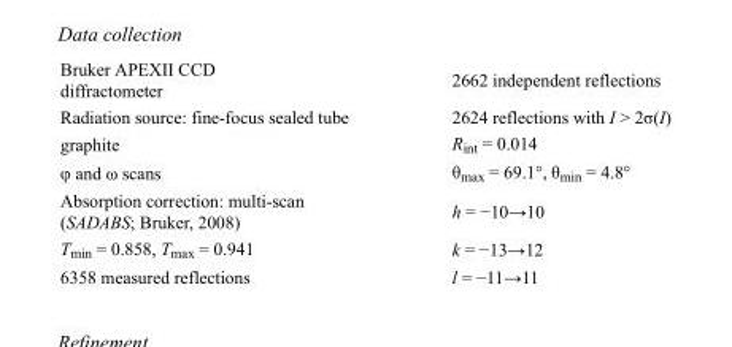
<table><tbody><tr><td>Bruker APEXII CCD diffractometer</td><td>2662 independent reflections</td></tr><tr><td>Radiation source: fine-focus sealed tube</td><td>2624 reflections with I &gt; 2σ(I)</td></tr><tr><td>graphite</td><td>R<sub>int</sub> = 0.014</td></tr><tr><td>φ and ω scans</td><td>θ<sub>max</sub> = 69.1°, θ<sub>min</sub> = 4.8°</td></tr><tr><td>Absorption correction: multi-scan (SADABS; Bruker, 2008)</td><td>h = −10→10</td></tr><tr><td>T<sub>min</sub> = 0.858, T<sub>max</sub> = 0.941</td><td>k = −13→12</td></tr><tr><td>6358 measured reflections</td><td>l = −11→11</td></tr></tbody></table>